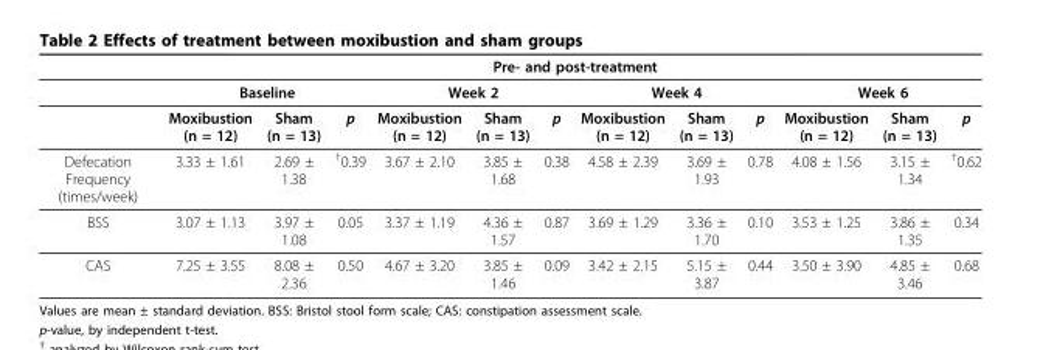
<table><thead><tr><td rowspan="3"></td><td colspan="12">Pre- and post-treatment</td></tr><tr><td colspan="3">Baseline</td><td colspan="3">Week 2</td><td colspan="3">Week 4</td><td colspan="3">Week 6</td></tr><tr><td>Moxibustion (n = 12)</td><td>Sham (n = 13)</td><td>p</td><td>Moxibustion (n = 12)</td><td>Sham (n = 13)</td><td>p</td><td>Moxibustion (n = 12)</td><td>Sham (n = 13)</td><td>p</td><td>Moxibustion (n = 12)</td><td>Sham (n = 13)</td><td>p</td></tr></thead><tbody><tr><td>Defecation Frequency (times/week)</td><td>3.33 ± 1.61</td><td>2.69 ± 1.38</td><td><sup>†</sup>0.39</td><td>3.67 ± 2.10</td><td>3.85 ± 1.68</td><td>0.38</td><td>4.58 ± 2.39</td><td>3.69 ± 1.93</td><td>0.78</td><td>4.08 ± 1.56</td><td>3.15 ± 1.34</td><td><sup>†</sup>0.62</td></tr><tr><td>BSS</td><td>3.07 ± 1.13</td><td>3.97 ± 1.08</td><td>0.05</td><td>3.37 ± 1.19</td><td>4.36 ± 1.57</td><td>0.87</td><td>3.69 ± 1.29</td><td>3.36 ± 1.70</td><td>0.10</td><td>3.53 ± 1.25</td><td>3.86 ± 1.35</td><td>0.34</td></tr><tr><td>CAS</td><td>7.25 ± 3.55</td><td>8.08 ± 2.36</td><td>0.50</td><td>4.67 ± 3.20</td><td>3.85 ± 1.46</td><td>0.09</td><td>3.42 ± 2.15</td><td>5.15 ± 3.87</td><td>0.44</td><td>3.50 ± 3.90</td><td>4.85 ± 3.46</td><td>0.68</td></tr></tbody></table>